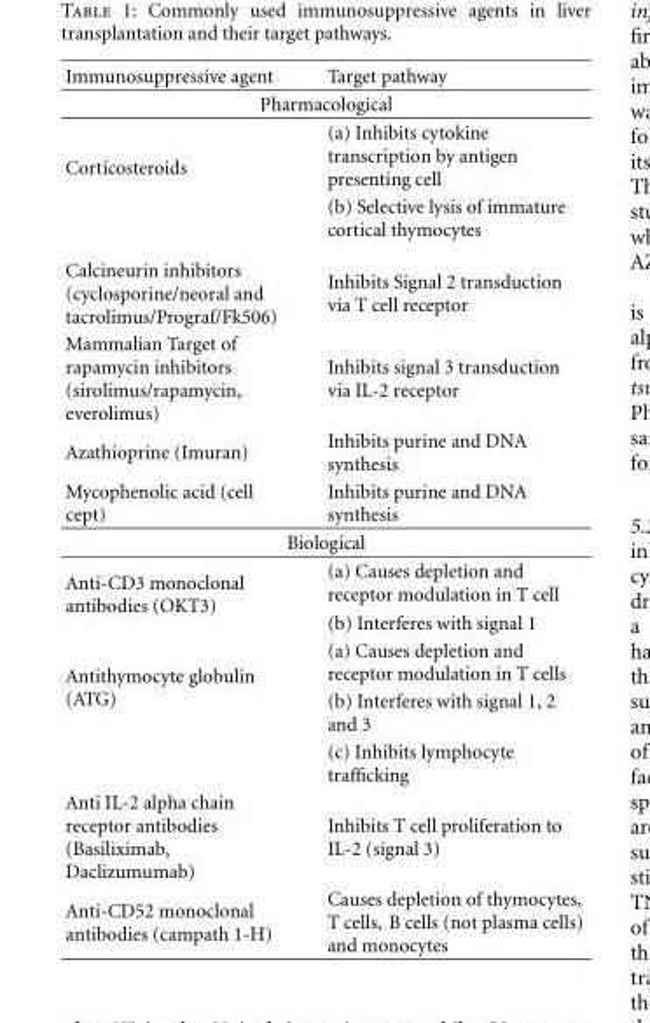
<table><thead><tr><td>Immunosuppressive agent</td><td>Target pathway</td></tr></thead><tbody><tr><td colspan="2">Pharmacological</td></tr><tr><td rowspan="2">Corticosteroids</td><td>(a) Inhibits cytokine transcription by antigen presenting cell</td></tr><tr><td>(b) Selective lysis of immature cortical thymocytes</td></tr><tr><td>Calcineurin inhibitors (cyclosporine/neoral and tacrolimus/Prograf/Fk506)</td><td>Inhibits Signal 2 transduction via T cell receptor</td></tr><tr><td>Mammalian Target of rapamycin inhibitors (sirolimus/rapamycin, everolimus)</td><td>Inhibits signal 3 transduction via IL-2 receptor</td></tr><tr><td>Azathioprine (Imuran)</td><td>Inhibits purine and DNA synthesis</td></tr><tr><td>Mycophenolic acid (cell cept)</td><td>Inhibits purine and DNA synthesis</td></tr><tr><td colspan="2">Biological</td></tr><tr><td rowspan="2">Anti-CD3 monoclonal antibodies (OKT3)</td><td>(a) Causes depletion and receptor modulation in T cell</td></tr><tr><td>(b) Interferes with signal 1</td></tr><tr><td rowspan="3">Antithymocyte globulin (ATG)</td><td>(a) Causes depletion and receptor modulation in T cells</td></tr><tr><td>(b) Interferes with signal 1, 2 and 3</td></tr><tr><td>(c) Inhibits lymphocyte trafficking</td></tr><tr><td>Anti IL-2 alpha chain receptor antibodies (Basiliximab, Daclizumumab)</td><td>Inhibits T cell proliferation to IL-2 (signal 3)</td></tr><tr><td>Anti-CD52 monoclonal antibodies (campath 1-H)</td><td>Causes depletion of thymocytes, T cells, B cells (not plasma cells) and monocytes</td></tr></tbody></table>